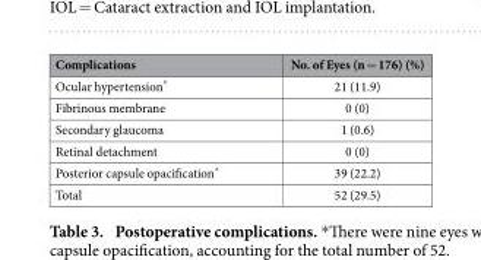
<table><thead><tr><td>Complications</td><td>No. of Eyes (n = 176) (%)</td></tr></thead><tbody><tr><td>Ocular hypertension*</td><td>21 (11.9)</td></tr><tr><td>Fibrinous membrane</td><td>0 (0)</td></tr><tr><td>Secondary glaucoma</td><td>1 (0.6)</td></tr><tr><td>Retinal detachment</td><td>0 (0)</td></tr><tr><td>Posterior capsule opacification*</td><td>39 (22.2)</td></tr><tr><td>Total</td><td>52 (29.5)</td></tr></tbody></table>